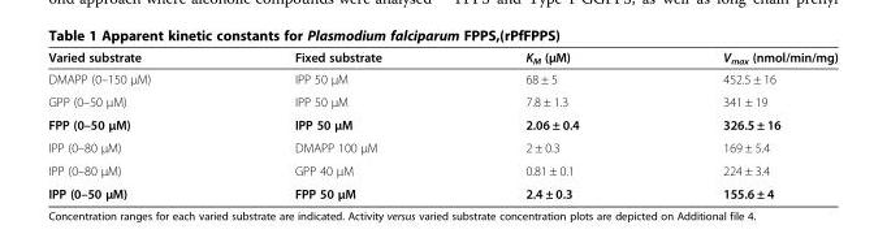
<table><thead><tr><td>Varied substrate</td><td>Fixed substrate</td><td>K<sub>M</sub> (μM)</td><td>V<sub>max</sub> (nmol/min/mg)</td></tr></thead><tbody><tr><td>DMAPP (0–150 μM)</td><td>IPP 50 μM</td><td>68 ± 5</td><td>452.5 ± 16</td></tr><tr><td>GPP (0–50 μM)</td><td>IPP 50 μM</td><td>7.8 ± 1.3</td><td>341 ± 19</td></tr><tr><td>FPP (0–50 μM)</td><td>IPP 50 μM</td><td>2.06 ± 0.4</td><td>326.5 ± 16</td></tr><tr><td>IPP (0–80 μM)</td><td>DMAPP 100 μM</td><td>2 ± 0.3</td><td>169 ± 5.4</td></tr><tr><td>IPP (0–80 μM)</td><td>GPP 40 μM</td><td>0.81 ± 0.1</td><td>224 ± 3.4</td></tr><tr><td>IPP (0–50 μM)</td><td>FPP 50 μM</td><td>2.4 ± 0.3</td><td>155.6 ± 4</td></tr></tbody></table>